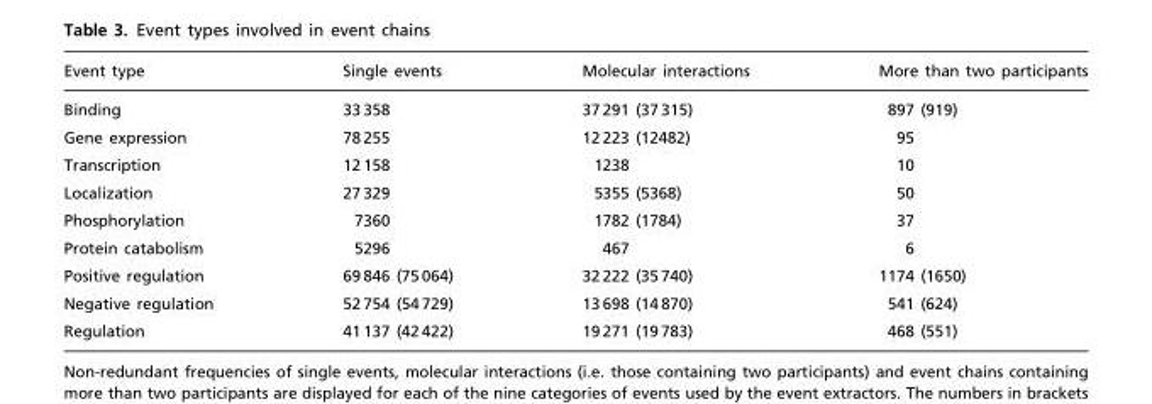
<table><thead><tr><td>Event type</td><td>Single events</td><td>Molecular interactions</td><td>More than two participants</td></tr></thead><tbody><tr><td>Binding</td><td>33 358</td><td>37 291 (37 315)</td><td>897 (919)</td></tr><tr><td>Gene expression</td><td>78 255</td><td>12 223 (12482)</td><td>95</td></tr><tr><td>Transcription</td><td>12 158</td><td>1238</td><td>10</td></tr><tr><td>Localization</td><td>27 329</td><td>5355 (5368)</td><td>50</td></tr><tr><td>Phosphorylation</td><td>7360</td><td>1782 (1784)</td><td>37</td></tr><tr><td>Protein catabolism</td><td>5296</td><td>467</td><td>6</td></tr><tr><td>Positive regulation</td><td>69 846 (75 064)</td><td>32 222 (35 740)</td><td>1174 (1650)</td></tr><tr><td>Negative regulation</td><td>52 754 (54 729)</td><td>13 698 (14 870)</td><td>541 (624)</td></tr><tr><td>Regulation</td><td>41 137 (42 422)</td><td>19 271 (19 783)</td><td>468 (551)</td></tr></tbody></table>